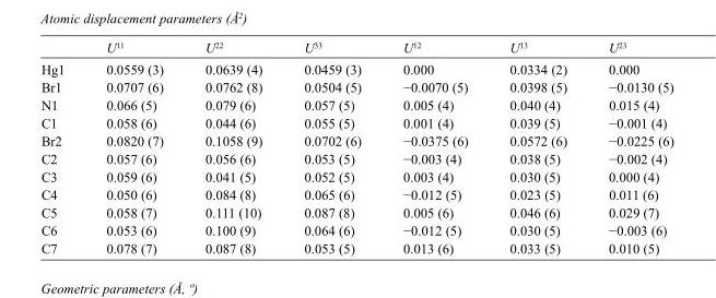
<table><thead><tr><td></td><td>U<sup>11</sup></td><td>U<sup>22</sup></td><td>U<sup>33</sup></td><td>U<sup>12</sup></td><td>U<sup>13</sup></td><td>U<sup>23</sup></td></tr></thead><tbody><tr><td>Hg1</td><td>0.0559 (3)</td><td>0.0639 (4)</td><td>0.0459 (3)</td><td>0.000</td><td>0.0334 (2)</td><td>0.000</td></tr><tr><td>Br1</td><td>0.0707 (6)</td><td>0.0762 (8)</td><td>0.0504 (5)</td><td>−0.0070 (5)</td><td>0.0398 (5)</td><td>−0.0130 (5)</td></tr><tr><td>N1</td><td>0.066 (5)</td><td>0.079 (6)</td><td>0.057 (5)</td><td>0.005 (4)</td><td>0.040 (4)</td><td>0.015 (4)</td></tr><tr><td>C1</td><td>0.058 (6)</td><td>0.044 (6)</td><td>0.055 (5)</td><td>0.001 (4)</td><td>0.039 (5)</td><td>−0.001 (4)</td></tr><tr><td>Br2</td><td>0.0820 (7)</td><td>0.1058 (9)</td><td>0.0702 (6)</td><td>−0.0375 (6)</td><td>0.0572 (6)</td><td>−0.0225 (6)</td></tr><tr><td>C2</td><td>0.057 (6)</td><td>0.056 (6)</td><td>0.053 (5)</td><td>−0.003 (4)</td><td>0.038 (5)</td><td>−0.002 (4)</td></tr><tr><td>C3</td><td>0.059 (6)</td><td>0.041 (5)</td><td>0.052 (5)</td><td>0.003 (4)</td><td>0.030 (5)</td><td>0.000 (4)</td></tr><tr><td>C4</td><td>0.050 (6)</td><td>0.084 (8)</td><td>0.065 (6)</td><td>−0.012 (5)</td><td>0.023 (5)</td><td>0.011 (6)</td></tr><tr><td>C5</td><td>0.058 (7)</td><td>0.111 (10)</td><td>0.087 (8)</td><td>0.005 (6)</td><td>0.046 (6)</td><td>0.029 (7)</td></tr><tr><td>C6</td><td>0.053 (6)</td><td>0.100 (9)</td><td>0.064 (6)</td><td>−0.012 (5)</td><td>0.030 (5)</td><td>−0.003 (6)</td></tr><tr><td>C7</td><td>0.078 (7)</td><td>0.087 (8)</td><td>0.053 (5)</td><td>0.013 (6)</td><td>0.033 (5)</td><td>0.010 (5)</td></tr></tbody></table>